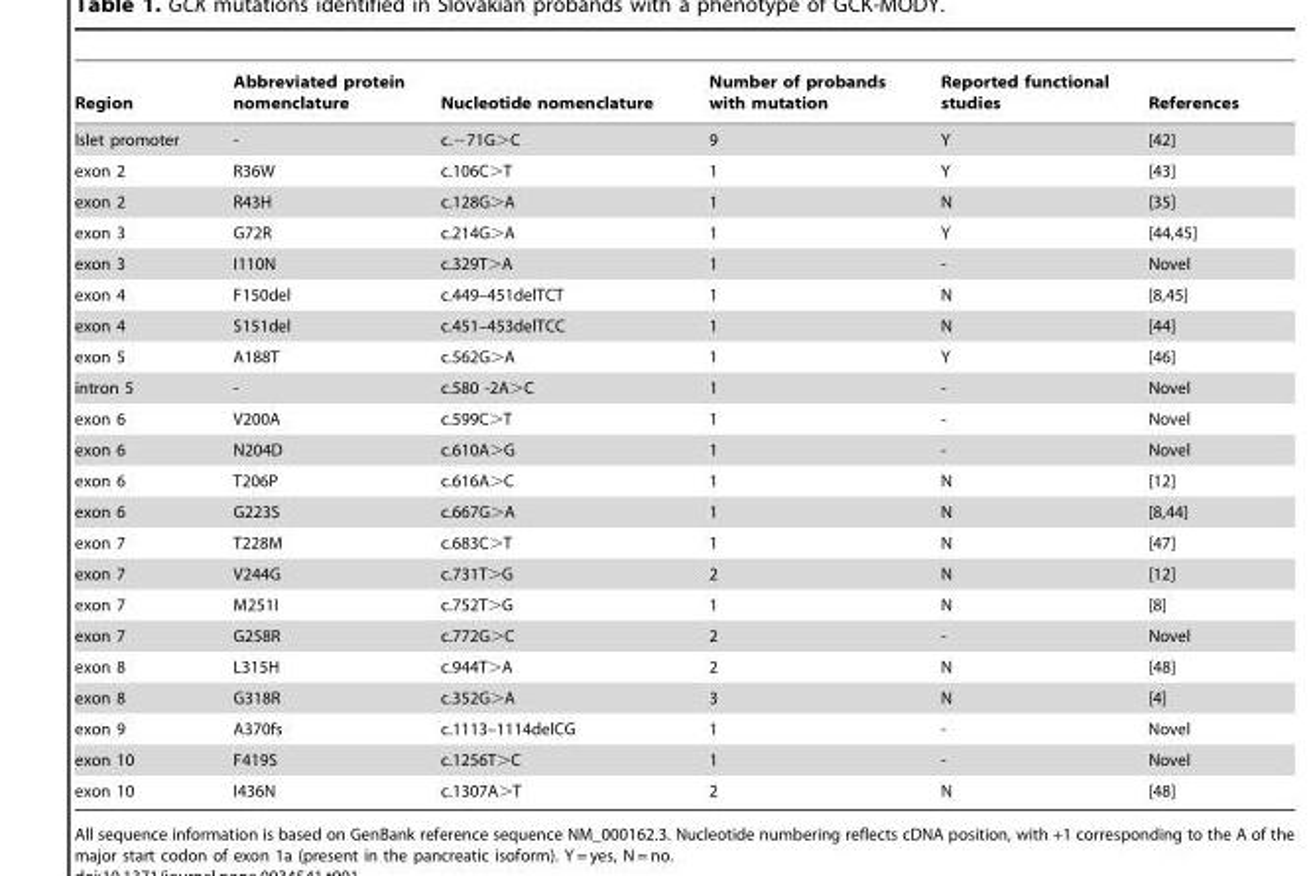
<table><thead><tr><td>Region</td><td>Abbreviated protein nomenclature</td><td>Nucleotide nomenclature</td><td>Number of probands with mutation</td><td>Reported functional studies</td><td>References</td></tr></thead><tbody><tr><td>Islet promoter</td><td>-</td><td>c.−71G&gt;C</td><td>9</td><td>Y</td><td>[42]</td></tr><tr><td>exon 2</td><td>R36W</td><td>c.106C&gt;T</td><td>1</td><td>Y</td><td>[43]</td></tr><tr><td>exon 2</td><td>R43H</td><td>c.128G&gt;A</td><td>1</td><td>N</td><td>[35]</td></tr><tr><td>exon 3</td><td>G72R</td><td>c.214G&gt;A</td><td>1</td><td>Y</td><td>[44,45]</td></tr><tr><td>exon 3</td><td>I110N</td><td>c.329T&gt;A</td><td>1</td><td>-</td><td>Novel</td></tr><tr><td>exon 4</td><td>F150del</td><td>c.449–451delTCT</td><td>1</td><td>N</td><td>[8,45]</td></tr><tr><td>exon 4</td><td>S151del</td><td>c.451–453delTCC</td><td>1</td><td>N</td><td>[44]</td></tr><tr><td>exon 5</td><td>A188T</td><td>c.562G&gt;A</td><td>1</td><td>Y</td><td>[46]</td></tr><tr><td>intron 5</td><td>-</td><td>c.580 -2A&gt;C</td><td>1</td><td>-</td><td>Novel</td></tr><tr><td>exon 6</td><td>V200A</td><td>c.599C&gt;T</td><td>1</td><td>-</td><td>Novel</td></tr><tr><td>exon 6</td><td>N204D</td><td>c.610A&gt;G</td><td>1</td><td>-</td><td>Novel</td></tr><tr><td>exon 6</td><td>T206P</td><td>c.616A&gt;C</td><td>1</td><td>N</td><td>[12]</td></tr><tr><td>exon 6</td><td>G223S</td><td>c.667G&gt;A</td><td>1</td><td>N</td><td>[8,44]</td></tr><tr><td>exon 7</td><td>T228M</td><td>c.683C&gt;T</td><td>1</td><td>N</td><td>[47]</td></tr><tr><td>exon 7</td><td>V244G</td><td>c.731T&gt;G</td><td>2</td><td>N</td><td>[12]</td></tr><tr><td>exon 7</td><td>M251I</td><td>c.752T&gt;G</td><td>1</td><td>N</td><td>[8]</td></tr><tr><td>exon 7</td><td>G258R</td><td>c.772G&gt;C</td><td>2</td><td>-</td><td>Novel</td></tr><tr><td>exon 8</td><td>L315H</td><td>c.944T&gt;A</td><td>2</td><td>N</td><td>[48]</td></tr><tr><td>exon 8</td><td>G318R</td><td>c.352G&gt;A</td><td>3</td><td>N</td><td>[4]</td></tr><tr><td>exon 9</td><td>A370fs</td><td>c.1113–1114delCG</td><td>1</td><td>-</td><td>Novel</td></tr><tr><td>exon 10</td><td>F419S</td><td>c.1256T&gt;C</td><td>1</td><td>-</td><td>Novel</td></tr><tr><td>exon 10</td><td>I436N</td><td>c.1307A&gt;T</td><td>2</td><td>N</td><td>[48]</td></tr></tbody></table>